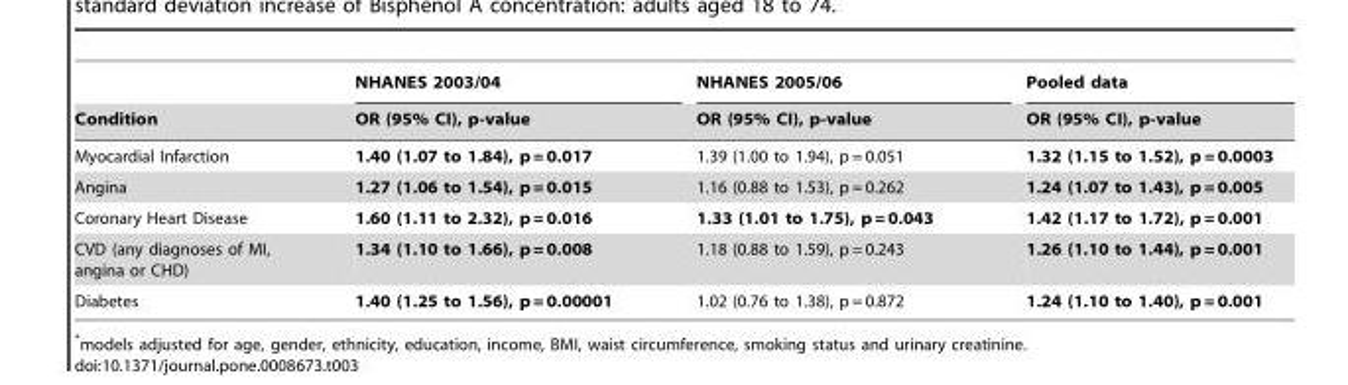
<table><thead><tr><td rowspan="2">Condition</td><td rowspan="2">NHANES 2003/04 OR (95% CI), p-value</td><td rowspan="2">NHANES 2005/06 OR (95% CI), p-value</td><td rowspan="2">Pooled data OR (95% CI), p-value</td></tr><tr></tr></thead><tbody><tr><td>Myocardial Infarction</td><td>1.40 (1.07 to 1.84), p = 0.017</td><td>1.39 (1.00 to 1.94), p = 0.051</td><td>1.32 (1.15 to 1.52), p = 0.0003</td></tr><tr><td>Angina</td><td>1.27 (1.06 to 1.54), p = 0.015</td><td>1.16 (0.88 to 1.53), p = 0.262</td><td>1.24 (1.07 to 1.43), p = 0.005</td></tr><tr><td>Coronary Heart Disease</td><td>1.60 (1.11 to 2.32), p = 0.016</td><td>1.33 (1.01 to 1.75), p = 0.043</td><td>1.42 (1.17 to 1.72), p = 0.001</td></tr><tr><td>CVD (any diagnoses of MI, angina or CHD)</td><td>1.34 (1.10 to 1.66), p = 0.008</td><td>1.18 (0.88 to 1.59), p = 0.243</td><td>1.26 (1.10 to 1.44), p = 0.001</td></tr><tr><td>Diabetes</td><td>1.40 (1.25 to 1.56), p = 0.00001</td><td>1.02 (0.76 to 1.38), p = 0.872</td><td>1.24 (1.10 to 1.40), p = 0.001</td></tr></tbody></table>